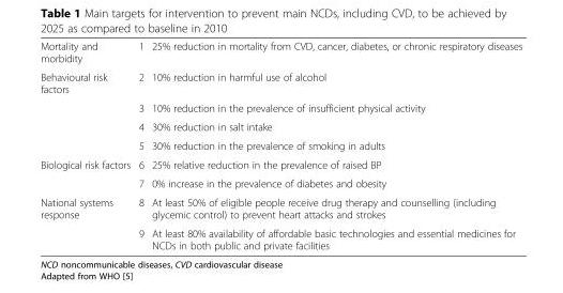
<table><tbody><tr><td>Mortality and morbidity</td><td>1</td><td>25% reduction in mortality from CVD, cancer, diabetes, or chronic respiratory diseases</td></tr><tr><td rowspan="4">Behavioural risk factors</td><td>2</td><td>10% reduction in harmful use of alcohol</td></tr><tr><td>3</td><td>10% reduction in the prevalence of insufficient physical activity</td></tr><tr><td>4</td><td>30% reduction in salt intake</td></tr><tr><td>5</td><td>30% reduction in the prevalence of smoking in adults</td></tr><tr><td rowspan="2">Biological risk factors</td><td>6</td><td>25% relative reduction in the prevalence of raised BP</td></tr><tr><td>7</td><td>0% increase in the prevalence of diabetes and obesity</td></tr><tr><td rowspan="2">National systems response</td><td>8</td><td>At least 50% of eligible people receive drug therapy and counselling (including glycemic control) to prevent heart attacks and strokes</td></tr><tr><td>9</td><td>At least 80% availability of affordable basic technologies and essential medicines for NCDs in both public and private facilities</td></tr></tbody></table>